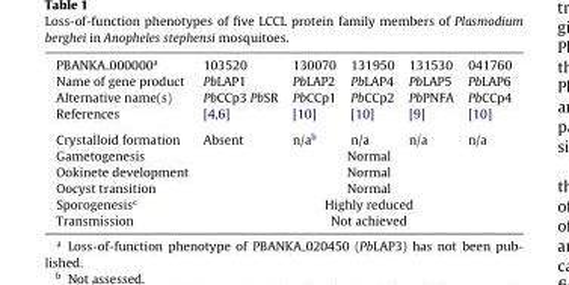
<table><tbody><tr><td>PBANKA 000000a</td><td>103520</td><td>130070</td><td>131950</td><td>131530</td><td>041760</td></tr><tr><td>Name of gene product</td><td>PbLAP1</td><td>PbLAP2</td><td>PbLAP4</td><td>PbLAP5</td><td>PbLAP6</td></tr><tr><td>Alternative name(s)</td><td>PbCCp3 PbSR</td><td>PbCCp1</td><td>PbCCp2</td><td>PbPNFA</td><td>PbCCp4</td></tr><tr><td>References</td><td>[4,6]</td><td>[10]</td><td>[10]</td><td>[9]</td><td>[10]</td></tr><tr><td>Crystalloid formation</td><td>Absent</td><td>n/a<sup>b</sup></td><td>n/a</td><td>n/a</td><td>n/a</td></tr><tr><td>Gametogenesis</td><td colspan="5">Normal</td></tr><tr><td>Ookinete development</td><td colspan="5">Normal</td></tr><tr><td>Oocyst transition</td><td colspan="5">Normal</td></tr><tr><td>Sporogenesis<sup>c</sup></td><td colspan="5">Highly reduced</td></tr><tr><td>Transmission</td><td colspan="5">Not achieved</td></tr></tbody></table>